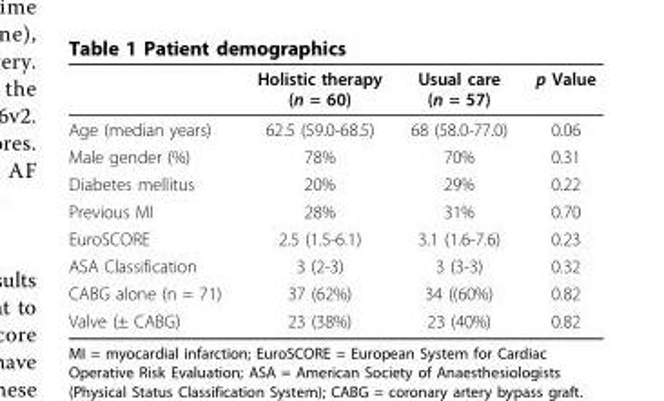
<table><thead><tr><td></td><td>Holistic therapy (n = 60)</td><td>Usual care (n = 57)</td><td>p Value</td></tr></thead><tbody><tr><td>Age (median years)</td><td>62.5 (59.0-68.5)</td><td>68 (58.0-77.0)</td><td>0.06</td></tr><tr><td>Male gender (%)</td><td>78%</td><td>70%</td><td>0.31</td></tr><tr><td>Diabetes mellitus</td><td>20%</td><td>29%</td><td>0.22</td></tr><tr><td>Previous MI</td><td>28%</td><td>31%</td><td>0.70</td></tr><tr><td>EuroSCORE</td><td>2.5 (1.5-6.1)</td><td>3.1 (1.6-7.6)</td><td>0.23</td></tr><tr><td>ASA Classification</td><td>3 (2-3)</td><td>3 (3-3)</td><td>0.32</td></tr><tr><td>CABG alone (n = 71)</td><td>37 (62%)</td><td>34 ((60%)</td><td>0.82</td></tr><tr><td>Valve (± CABG)</td><td>23 (38%)</td><td>23 (40%)</td><td>0.82</td></tr></tbody></table>